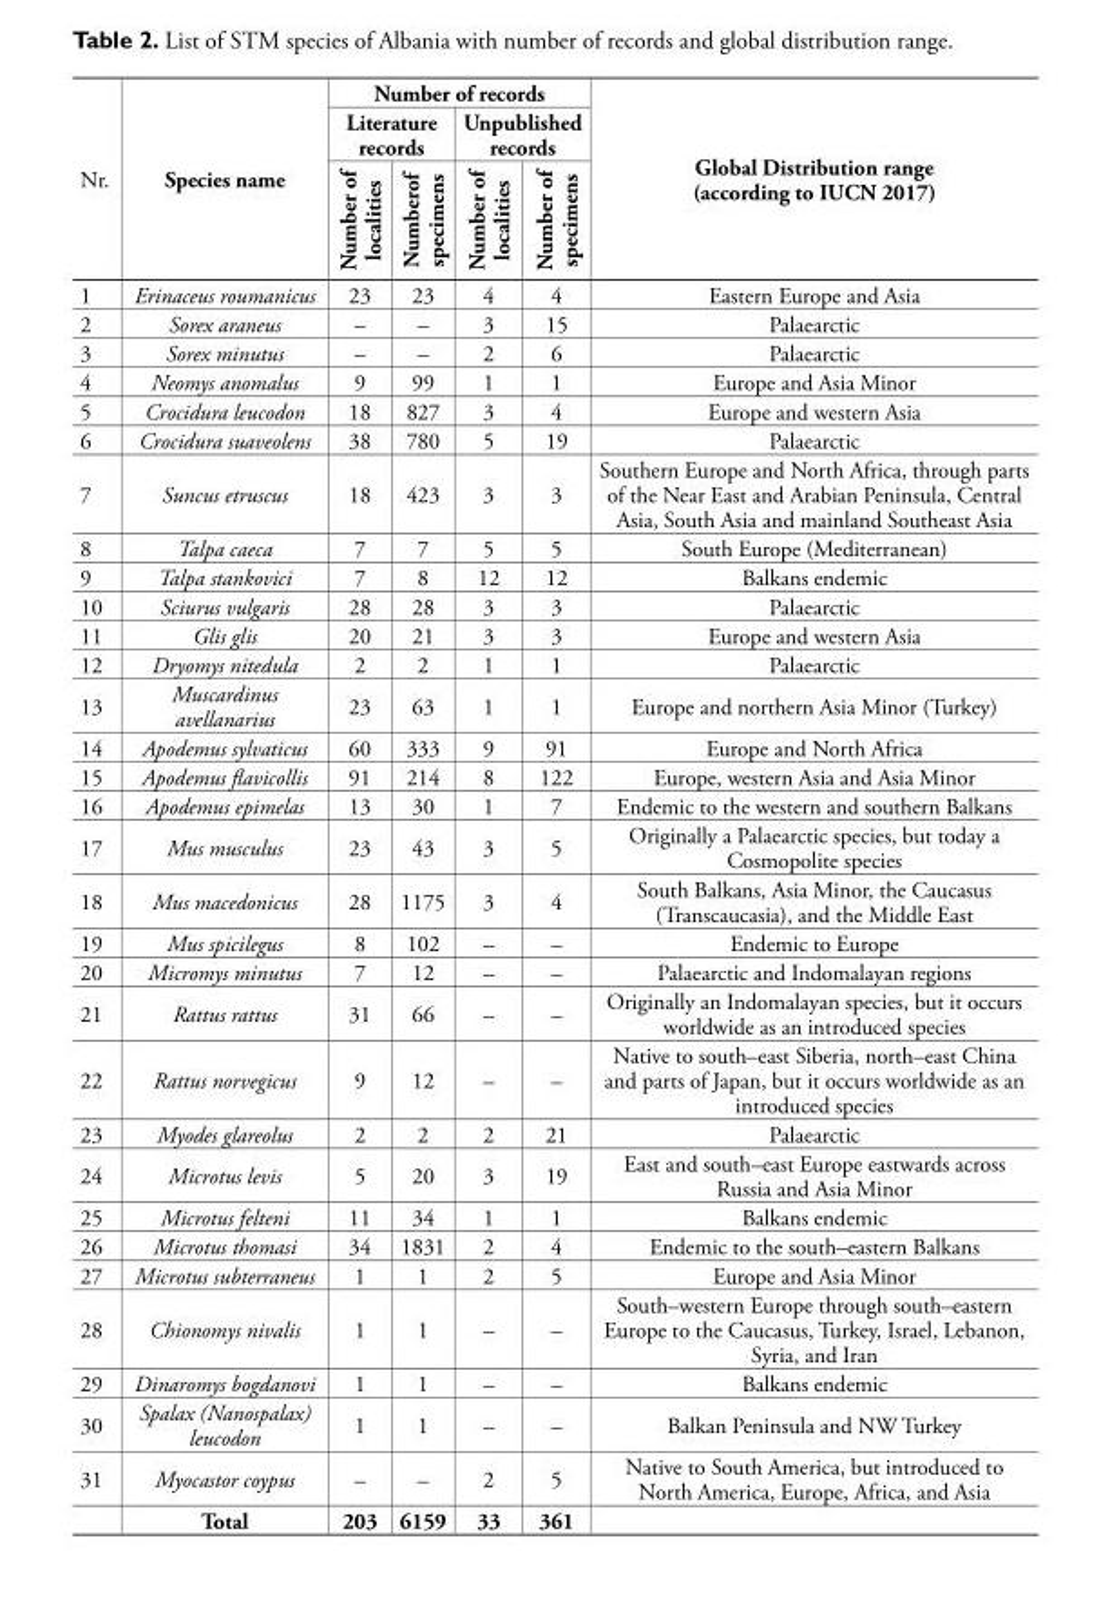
<table><thead><tr><td rowspan="3">Nr.</td><td rowspan="3">Species name</td><td colspan="4">Number of records</td><td rowspan="3">Global Distribution range (according to IUCN 2017)</td></tr><tr><td colspan="2">Literature records</td><td colspan="2">Unpublished records</td></tr><tr><td>Number of localities</td><td>Numberof specimens</td><td>Number of localities</td><td>Number of specimens</td></tr></thead><tbody><tr><td>1</td><td>Erinaceus roumanicus</td><td>23</td><td>23</td><td>4</td><td>4</td><td>Eastern Europe and Asia</td></tr><tr><td>2</td><td>Sorex araneus</td><td>–</td><td>–</td><td>3</td><td>15</td><td>Palaearctic</td></tr><tr><td>3</td><td>Sorex minutus</td><td>–</td><td>–</td><td>2</td><td>6</td><td>Palaearctic</td></tr><tr><td>4</td><td>Neomys anomalus</td><td>9</td><td>99</td><td>1</td><td>1</td><td>Europe and Asia Minor</td></tr><tr><td>5</td><td>Crocidura leucodon</td><td>18</td><td>827</td><td>3</td><td>4</td><td>Europe and western Asia</td></tr><tr><td>6</td><td>Crocidura suaveolens</td><td>38</td><td>780</td><td>5</td><td>19</td><td>Palaearctic</td></tr><tr><td>7</td><td>Suncus etruscus</td><td>18</td><td>423</td><td>3</td><td>3</td><td>Southern Europe and North Africa, through parts of the Near East and Arabian Peninsula, Central Asia, South Asia and mainland Southeast Asia</td></tr><tr><td>8</td><td>Talpa caeca</td><td>7</td><td>7</td><td>5</td><td>5</td><td>South Europe (Mediterranean)</td></tr><tr><td>9</td><td>Talpa stankovici</td><td>7</td><td>8</td><td>12</td><td>12</td><td>Balkans endemic</td></tr><tr><td>10</td><td>Sciurus vulgaris</td><td>28</td><td>28</td><td>3</td><td>3</td><td>Palaearctic</td></tr><tr><td>11</td><td>Glis glis</td><td>20</td><td>21</td><td>3</td><td>3</td><td>Europe and western Asia</td></tr><tr><td>12</td><td>Dryomys nitedula</td><td>2</td><td>2</td><td>1</td><td>1</td><td>Palaearctic</td></tr><tr><td>13</td><td>Muscardinus avellanarius</td><td>23</td><td>63</td><td>1</td><td>1</td><td>Europe and northern Asia Minor (Turkey)</td></tr><tr><td>14</td><td>Apodemus sylvaticus</td><td>60</td><td>333</td><td>9</td><td>91</td><td>Europe and North Africa</td></tr><tr><td>15</td><td>Apodemus flavicollis</td><td>91</td><td>214</td><td>8</td><td>122</td><td>Europe, western Asia and Asia Minor</td></tr><tr><td>16</td><td>Apodemus epimelas</td><td>13</td><td>30</td><td>1</td><td>7</td><td>Endemic to the western and southern Balkans</td></tr><tr><td>17</td><td>Mus musculus</td><td>23</td><td>43</td><td>3</td><td>5</td><td>Originally a Palaearctic species, but today a Cosmopolite species</td></tr><tr><td>18</td><td>Mus macedonicus</td><td>28</td><td>1175</td><td>3</td><td>4</td><td>South Balkans, Asia Minor, the Caucasus (Transcaucasia), and the Middle East</td></tr><tr><td>19</td><td>Mus spicilegus</td><td>8</td><td>102</td><td>–</td><td>–</td><td>Endemic to Europe</td></tr><tr><td>20</td><td>Micromys minutus</td><td>7</td><td>12</td><td>–</td><td>–</td><td>Palaearctic and Indomalayan regions</td></tr><tr><td>21</td><td>Rattus rattus</td><td>31</td><td>66</td><td>–</td><td>–</td><td>Originally an Indomalayan species, but it occurs worldwide as an introduced species</td></tr><tr><td>22</td><td>Rattus norvegicus</td><td>9</td><td>12</td><td>–</td><td>–</td><td>Native to south–east Siberia, north–east China and parts of Japan, but it occurs worldwide as an introduced species</td></tr><tr><td>23</td><td>Myodes glareolus</td><td>2</td><td>2</td><td>2</td><td>21</td><td>Palaearctic</td></tr><tr><td>24</td><td>Microtus levis</td><td>5</td><td>20</td><td>3</td><td>19</td><td>East and south–east Europe eastwards across Russia and Asia Minor</td></tr><tr><td>25</td><td>Microtus felteni</td><td>11</td><td>34</td><td>1</td><td>1</td><td>Balkans endemic</td></tr><tr><td>26</td><td>Microtus thomasi</td><td>34</td><td>1831</td><td>2</td><td>4</td><td>Endemic to the south–eastern Balkans</td></tr><tr><td>27</td><td>Microtus subterraneus</td><td>1</td><td>1</td><td>2</td><td>5</td><td>Europe and Asia Minor</td></tr><tr><td>28</td><td>Chionomys nivalis</td><td>1</td><td>1</td><td>–</td><td>–</td><td>South–western Europe through south–eastern Europe to the Caucasus, Turkey, Israel, Lebanon, Syria, and Iran</td></tr><tr><td>29</td><td>Dinaromys bogdanovi</td><td>1</td><td>1</td><td>–</td><td>–</td><td>Balkans endemic</td></tr><tr><td>30</td><td>Spalax (Nanospalax) leucodon</td><td>1</td><td>1</td><td>–</td><td>–</td><td>Balkan Peninsula and NW Turkey</td></tr><tr><td rowspan="2">31</td><td>Myocastor coypus</td><td>–</td><td>–</td><td>2</td><td>5</td><td>Native to South America, but introduced to North America, Europe, Africa, and Asia</td></tr><tr><td>Total</td><td>203</td><td>6159</td><td>33</td><td>361</td><td></td></tr></tbody></table>